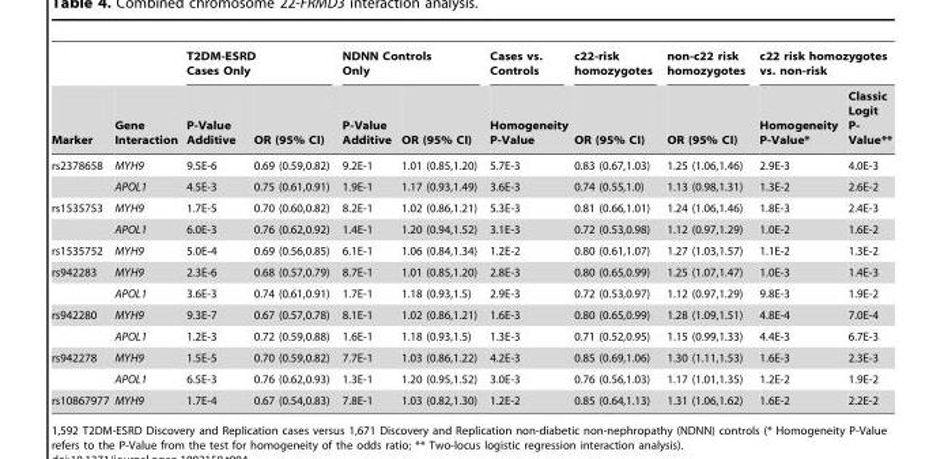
<table><thead><tr><td rowspan="2">Marker</td><td rowspan="2">Gene Interaction</td><td colspan="2">T2DM-ESRD Cases Only</td><td colspan="2">NDNN Controls Only</td><td rowspan="2">Cases vs. Controls Homogeneity P-Value</td><td rowspan="2">c22-risk homozygotes OR (95% CI)</td><td rowspan="2">non-c22 risk homozygotes OR (95% CI)</td><td colspan="2">c22 risk homozygotes vs. non-risk</td></tr><tr><td>P-Value Additive</td><td>OR (95% CI)</td><td>P-Value Additive</td><td>OR (95% CI)</td><td>Homogeneity P-Value*</td><td>Classic Logit P- Value**</td></tr></thead><tbody><tr><td rowspan="2">rs2378658</td><td>MYH9</td><td>9.5E-6</td><td>0.69 (0.59,0.82)</td><td>9.2E-1</td><td>1.01 (0.85,1.20)</td><td>5.7E-3</td><td>0.83 (0.67,1.03)</td><td>1.25 (1.06,1.46)</td><td>2.9E-3</td><td>4.0E-3</td></tr><tr><td>APOL1</td><td>4.5E-3</td><td>0.75 (0.61,0.91)</td><td>1.9E-1</td><td>1.17 (0.93,1.49)</td><td>3.6E-3</td><td>0.74 (0.55,1.0)</td><td>1.13 (0.98,1.31)</td><td>1.3E-2</td><td>2.6E-2</td></tr><tr><td rowspan="2">rs1535753</td><td>MYH9</td><td>1.7E-5</td><td>0.70 (0.60,0.82)</td><td>8.2E-1</td><td>1.02 (0.86,1.21)</td><td>5.3E-3</td><td>0.81 (0.66,1.01)</td><td>1.24 (1.06,1.46)</td><td>1.8E-3</td><td>2.4E-3</td></tr><tr><td>APOL1</td><td>6.0E-3</td><td>0.76 (0.62,0.92)</td><td>1.4E-1</td><td>1.20 (0.94,1.52)</td><td>3.1E-3</td><td>0.72 (0.53,0.98)</td><td>1.12 (0.97,1.29)</td><td>1.0E-2</td><td>1.6E-2</td></tr><tr><td>rs1535752</td><td>MYH9</td><td>5.0E-4</td><td>0.69 (0.56,0.85)</td><td>6.1E-1</td><td>1.06 (0.84,1.34)</td><td>1.2E-2</td><td>0.80 (0.61,1.07)</td><td>1.27 (1.03,1.57)</td><td>1.1E-2</td><td>1.3E-2</td></tr><tr><td rowspan="2">rs942283</td><td>MYH9</td><td>2.3E-6</td><td>0.68 (0.57,0.79)</td><td>8.7E-1</td><td>1.01 (0.85,1.20)</td><td>2.8E-3</td><td>0.80 (0.65,0.99)</td><td>1.25 (1.07,1.47)</td><td>1.0E-3</td><td>1.4E-3</td></tr><tr><td>APOL1</td><td>3.6E-3</td><td>0.74 (0.61,0.91)</td><td>1.7E-1</td><td>1.18 (0.93,1.5)</td><td>2.9E-3</td><td>0.72 (0.53,0.97)</td><td>1.12 (0.97,1.29)</td><td>9.8E-3</td><td>1.9E-2</td></tr><tr><td rowspan="2">rs942280</td><td>MYH9</td><td>9.3E-7</td><td>0.67 (0.57,0.78)</td><td>8.1E-1</td><td>1.02 (0.86,1.21)</td><td>1.6E-3</td><td>0.80 (0.65,0.99)</td><td>1.28 (1.09,1.51)</td><td>4.8E-4</td><td>7.0E-4</td></tr><tr><td>APOL1</td><td>1.2E-3</td><td>0.72 (0.59,0.88)</td><td>1.6E-1</td><td>1.18 (0.93,1.5)</td><td>1.3E-3</td><td>0.71 (0.52,0.95)</td><td>1.15 (0.99,1.33)</td><td>4.4E-3</td><td>6.7E-3</td></tr><tr><td rowspan="2">rs942278</td><td>MYH9</td><td>1.5E-5</td><td>0.70 (0.59,0.82)</td><td>7.7E-1</td><td>1.03 (0.86,1.22)</td><td>4.2E-3</td><td>0.85 (0.69,1.06)</td><td>1.30 (1.11,1.53)</td><td>1.6E-3</td><td>2.3E-3</td></tr><tr><td>APOL1</td><td>6.5E-3</td><td>0.76 (0.62,0.93)</td><td>1.3E-1</td><td>1.20 (0.95,1.52)</td><td>3.0E-3</td><td>0.76 (0.56,1.03)</td><td>1.17 (1.01,1.35)</td><td>1.2E-2</td><td>1.9E-2</td></tr><tr><td>rs10867977</td><td>MYH9</td><td>1.7E-4</td><td>0.67 (0.54,0.83)</td><td>7.8E-1</td><td>1.03 (0.82,1.30)</td><td>1.2E-2</td><td>0.85 (0.64,1.13)</td><td>1.31 (1.06,1.62)</td><td>1.6E-2</td><td>2.2E-2</td></tr></tbody></table>